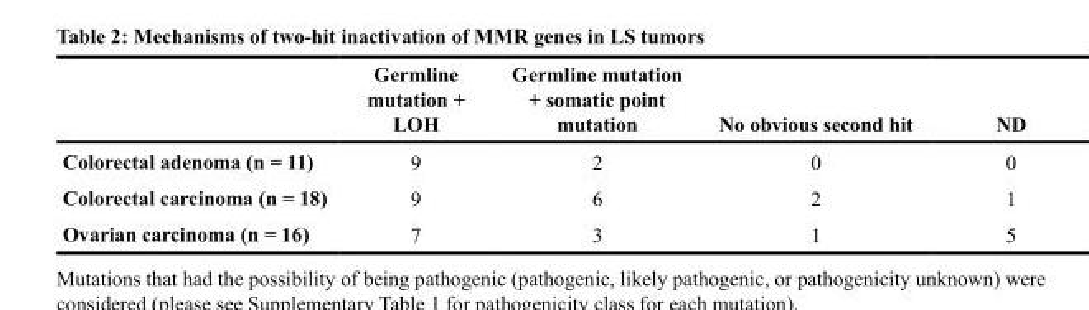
<table><thead><tr><td></td><td>Germline mutation + LOH</td><td>Germline mutation + somatic point mutation</td><td>No obvious second hit</td><td>ND</td></tr></thead><tbody><tr><td>Colorectal adenoma (n = 11)</td><td>9</td><td>2</td><td>0</td><td>0</td></tr><tr><td>Colorectal carcinoma (n = 18)</td><td>9</td><td>6</td><td>2</td><td>1</td></tr><tr><td>Ovarian carcinoma (n = 16)</td><td>7</td><td>3</td><td>1</td><td>5</td></tr></tbody></table>